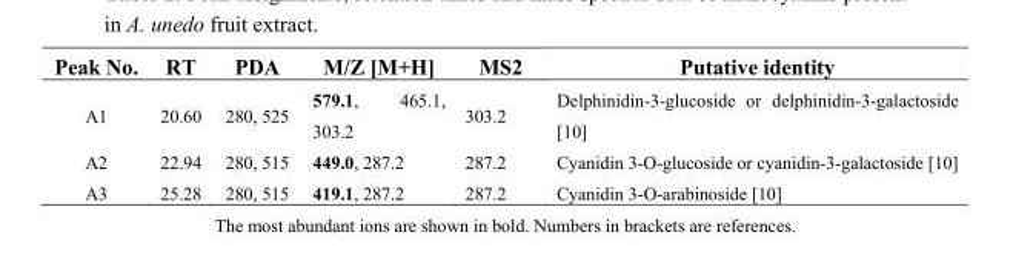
<table><thead><tr><td>Peak No.</td><td>RT</td><td>PDA</td><td>M/Z [M+H]</td><td>MS2</td><td>Putative identity</td></tr></thead><tbody><tr><td>A1</td><td>20.60</td><td>280, 525</td><td>579.1, 465.1, 303.2</td><td>303.2</td><td>Delphinidin-3-glucoside or delphinidin-3-galactoside [10]</td></tr><tr><td>A2</td><td>22.94</td><td>280, 515</td><td>449.0, 287.2</td><td>287.2</td><td>Cyanidin 3-O-glucoside or cyanidin-3-galactoside [10]</td></tr><tr><td>A3</td><td>25.28</td><td>280, 515</td><td>419.1, 287.2</td><td>287.2</td><td>Cyanidin 3-O-arabinoside [10]</td></tr></tbody></table>